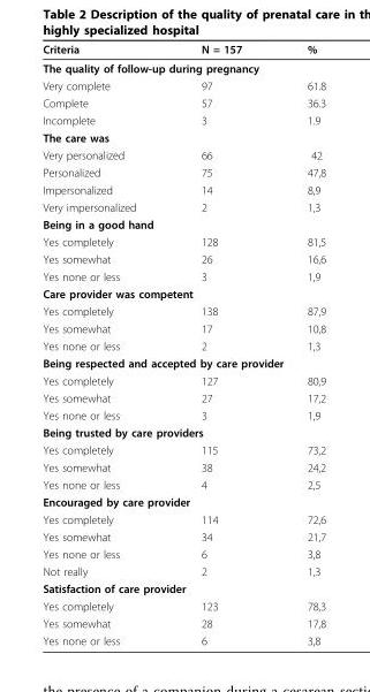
<table><thead><tr><td>Criteria</td><td>N = 157</td><td>%</td></tr></thead><tbody><tr><td colspan="3">The quality of follow-up during pregnancy</td></tr><tr><td>Very complete</td><td>97</td><td>61.8</td></tr><tr><td>Complete</td><td>57</td><td>36.3</td></tr><tr><td>Incomplete</td><td>3</td><td>1.9</td></tr><tr><td colspan="3">The care was</td></tr><tr><td>Very personalized</td><td>66</td><td>42</td></tr><tr><td>Personalized</td><td>75</td><td>47,8</td></tr><tr><td>Impersonalized</td><td>14</td><td>8,9</td></tr><tr><td>Very impersonalized</td><td>2</td><td>1,3</td></tr><tr><td colspan="3">Being in a good hand</td></tr><tr><td>Yes completely</td><td>128</td><td>81,5</td></tr><tr><td>Yes somewhat</td><td>26</td><td>16,6</td></tr><tr><td>Yes none or less</td><td>3</td><td>1,9</td></tr><tr><td colspan="3">Care provider was competent</td></tr><tr><td>Yes completely</td><td>138</td><td>87,9</td></tr><tr><td>Yes somewhat</td><td>17</td><td>10,8</td></tr><tr><td>Yes none or less</td><td>2</td><td>1,3</td></tr><tr><td colspan="3">Being respected and accepted by care provider</td></tr><tr><td>Yes completely</td><td>127</td><td>80,9</td></tr><tr><td>Yes somewhat</td><td>27</td><td>17,2</td></tr><tr><td>Yes none or less</td><td>3</td><td>1,9</td></tr><tr><td colspan="3">Being trusted by care providers</td></tr><tr><td>Yes completely</td><td>115</td><td>73,2</td></tr><tr><td>Yes somewhat</td><td>38</td><td>24,2</td></tr><tr><td>Yes none or less</td><td>4</td><td>2,5</td></tr><tr><td colspan="3">Encouraged by care provider</td></tr><tr><td>Yes completely</td><td>114</td><td>72,6</td></tr><tr><td>Yes somewhat</td><td>34</td><td>21,7</td></tr><tr><td>Yes none or less</td><td>6</td><td>3,8</td></tr><tr><td>Not really</td><td>2</td><td>1,3</td></tr><tr><td colspan="3">Satisfaction of care provider</td></tr><tr><td>Yes completely</td><td>123</td><td>78,3</td></tr><tr><td>Yes somewhat</td><td>28</td><td>17,8</td></tr><tr><td>Yes none or less</td><td>6</td><td>3,8</td></tr></tbody></table>